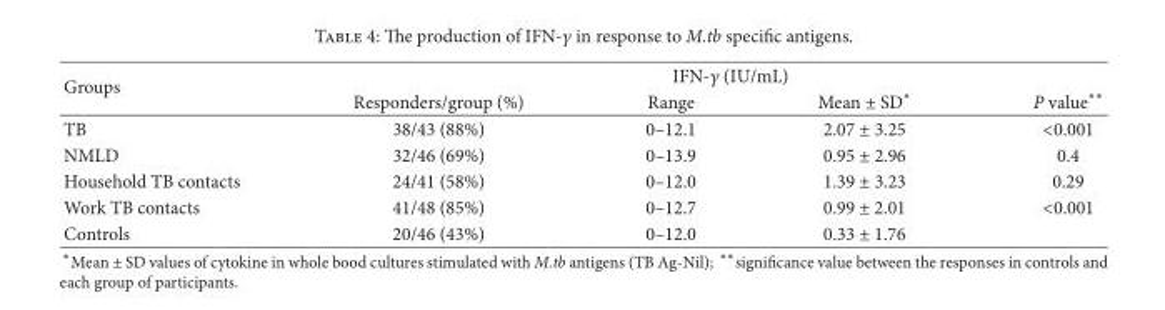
<table><thead><tr><td rowspan="2">Groups</td><td colspan="4">IFN-𝛾𝛾 (IU/mL)</td></tr><tr><td>Responders/group (%)</td><td>Range</td><td>Mean ± SD∗</td><td>P value∗∗</td></tr></thead><tbody><tr><td>TB</td><td>38/43 (88%)</td><td>0–12.1</td><td>2.07 ± 3.25</td><td>&lt;0.001</td></tr><tr><td>NMLD</td><td>32/46 (69%)</td><td>0–13.9</td><td>0.95 ± 2.96</td><td>0.4</td></tr><tr><td>Household TB contacts</td><td>24/41 (58%)</td><td>0–12.0</td><td>1.39 ± 3.23</td><td>0.29</td></tr><tr><td>Work TB contacts</td><td>41/48 (85%)</td><td>0–12.7</td><td>0.99 ± 2.01</td><td>&lt;0.001</td></tr><tr><td>Controls</td><td>20/46 (43%)</td><td>0–12.0</td><td>0.33 ± 1.76</td><td></td></tr></tbody></table>